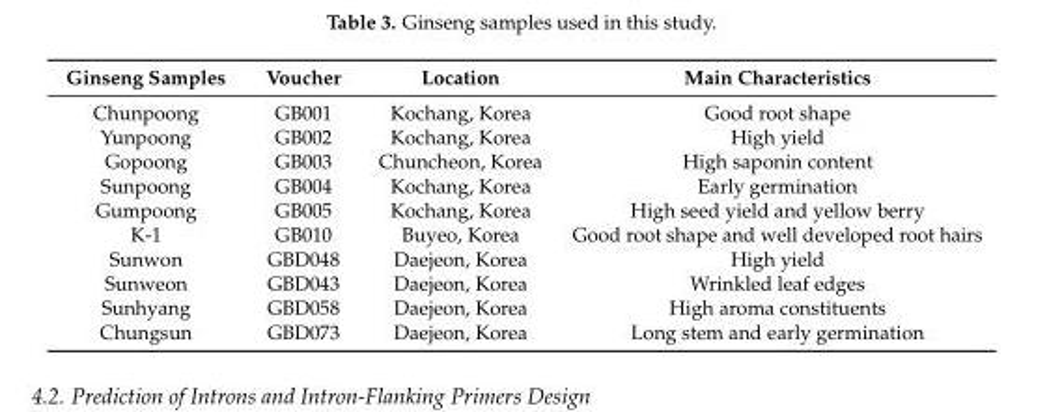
<table><thead><tr><td>Ginseng Samples</td><td>Voucher</td><td>Location</td><td>Main Characteristics</td></tr></thead><tbody><tr><td>Chunpoong</td><td>GB001</td><td>Kochang, Korea</td><td>Good root shape</td></tr><tr><td>Yunpoong</td><td>GB002</td><td>Kochang, Korea</td><td>High yield</td></tr><tr><td>Gopoong</td><td>GB003</td><td>Chuncheon, Korea</td><td>High saponin content</td></tr><tr><td>Sunpoong</td><td>GB004</td><td>Kochang, Korea</td><td>Early germination</td></tr><tr><td>Gumpoong</td><td>GB005</td><td>Kochang, Korea</td><td>High seed yield and yellow berry</td></tr><tr><td>K-1</td><td>GB010</td><td>Buyeo, Korea</td><td>Good root shape and well developed root hairs</td></tr><tr><td>Sunwon</td><td>GBD048</td><td>Daejeon, Korea</td><td>High yield</td></tr><tr><td>Sunweon</td><td>GBD043</td><td>Daejeon, Korea</td><td>Wrinkled leaf edges</td></tr><tr><td>Sunhyang</td><td>GBD058</td><td>Daejeon, Korea</td><td>High aroma constituents</td></tr><tr><td>Chungsun</td><td>GBD073</td><td>Daejeon, Korea</td><td>Long stem and early germination</td></tr></tbody></table>